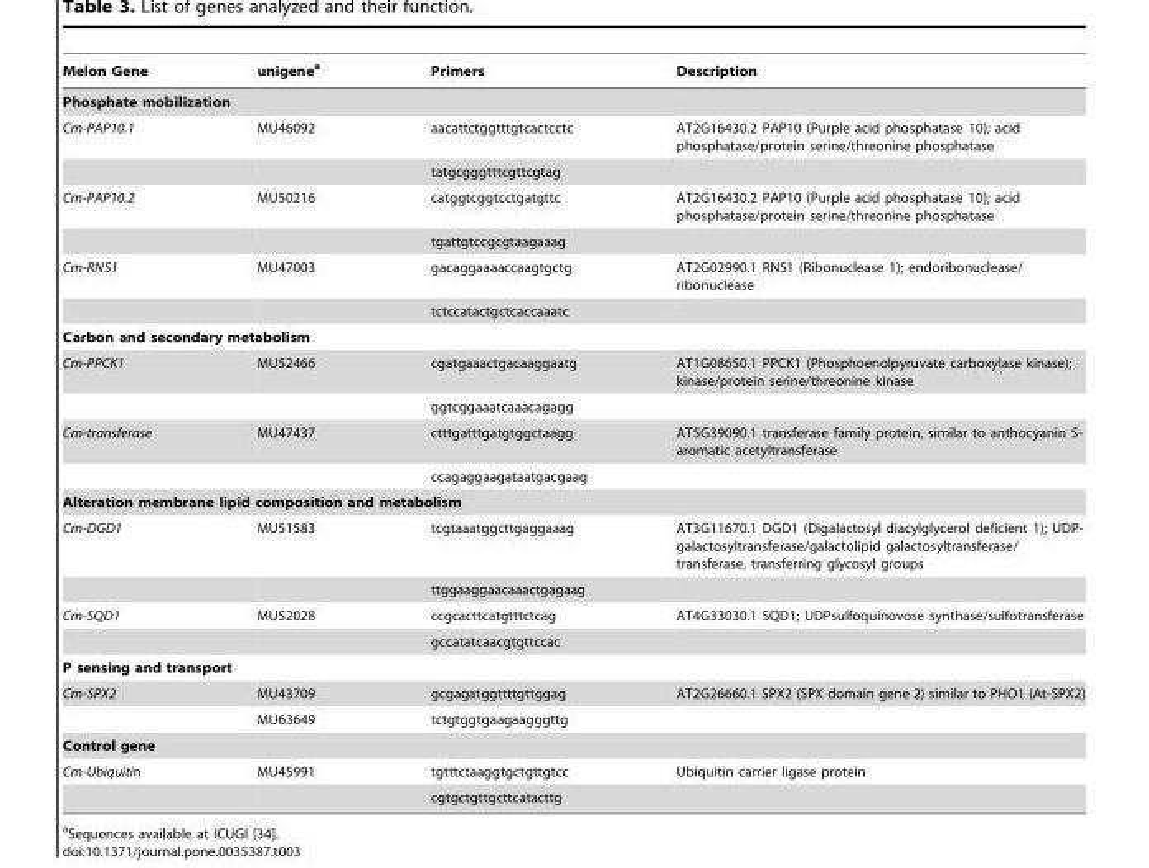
<table><thead><tr><td>Melon Gene</td><td>unigene<sup>a</sup></td><td>Primers</td><td>Description</td></tr></thead><tbody><tr><td colspan="4">Phosphate mobilization</td></tr><tr><td rowspan="2">Cm-PAP10.1</td><td>MU46092</td><td>aacattctggtttgtcactcctc</td><td>AT2G16430.2 PAP10 (Purple acid phosphatase 10); acid phosphatase/protein serine/threonine phosphatase</td></tr><tr><td></td><td>tatgcgggtttcgttcgtag</td><td></td></tr><tr><td rowspan="2">Cm-PAP10.2</td><td>MU50216</td><td>catggtcggtcctgatgttc</td><td>AT2G16430.2 PAP10 (Purple acid phosphatase 10); acid phosphatase/protein serine/threonine phosphatase</td></tr><tr><td></td><td>tgattgtccgcgtaagaaag</td><td></td></tr><tr><td rowspan="2">Cm-RNS1</td><td>MU47003</td><td>gacaggaaaaccaagtgctg</td><td>AT2G02990.1 RNS1 (Ribonuclease 1); endoribonuclease/ ribonuclease</td></tr><tr><td></td><td>tctccatactgctcaccaaatc</td><td></td></tr><tr><td colspan="4">Carbon and secondary metabolism</td></tr><tr><td rowspan="2">Cm-PPCK1</td><td>MU52466</td><td>cgatgaaactgacaaggaatg</td><td>AT1G08650.1 PPCK1 (Phosphoenolpyruvate carboxylase kinase); kinase/protein serine/threonine kinase</td></tr><tr><td></td><td>ggtcggaaatcaaacagagg</td><td></td></tr><tr><td rowspan="2">Cm-transferase</td><td>MU47437</td><td>ctttgatttgatgtggctaagg</td><td>AT5G39090.1 transferase family protein, similar to anthocyanin 5- aromatic acetyltransferase</td></tr><tr><td></td><td>ccagaggaagataatgacgaag</td><td></td></tr><tr><td colspan="4">Alteration membrane lipid composition and metabolism</td></tr><tr><td rowspan="2">Cm-DGD1</td><td>MU51583</td><td>tcgtaaatggcttgaggaaag</td><td>AT3G11670.1 DGD1 (Digalactosyl diacylglycerol deficient 1); UDP- galactosyltransferase/galactolipid galactosyltransferase/ transferase, transferring glycosyl groups</td></tr><tr><td></td><td>ttggaaggaacaaactgagaag</td><td></td></tr><tr><td rowspan="2">Cm-SQD1</td><td>MU52028</td><td>ccgcacttcatgtttctcag</td><td>AT4G33030.1 SQD1; UDPsulfoquinovose synthase/sulfotransferase</td></tr><tr><td></td><td>gccatatcaacgtgttccac</td><td></td></tr><tr><td colspan="4">P sensing and transport</td></tr><tr><td rowspan="2">Cm-SPX2</td><td>MU43709</td><td>gcgagatggttttgttggag</td><td>AT2G26660.1 SPX2 (SPX domain gene 2) similar to PHO1 (At-SPX2)</td></tr><tr><td>MU63649</td><td>tctgtggtgaagaagggttg</td><td></td></tr><tr><td colspan="4">Control gene</td></tr><tr><td rowspan="2">Cm-Ubiquitin</td><td>MU45991</td><td>tgtttctaaggtgctgttgtcc</td><td>Ubiquitin carrier ligase protein</td></tr><tr><td></td><td>cgtgctgttgcttcatacttg</td><td></td></tr></tbody></table>